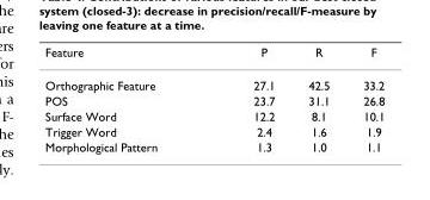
<table><thead><tr><td>Feature</td><td>P</td><td>R</td><td>F</td></tr></thead><tbody><tr><td>Orthographic Feature</td><td>27.1</td><td>42.5</td><td>33.2</td></tr><tr><td>POS</td><td>23.7</td><td>31.1</td><td>26.8</td></tr><tr><td>Surface Word</td><td>12.2</td><td>8.1</td><td>10.1</td></tr><tr><td>Trigger Word</td><td>2.4</td><td>1.6</td><td>1.9</td></tr><tr><td>Morphological Pattern</td><td>1.3</td><td>1.0</td><td>1.1</td></tr></tbody></table>